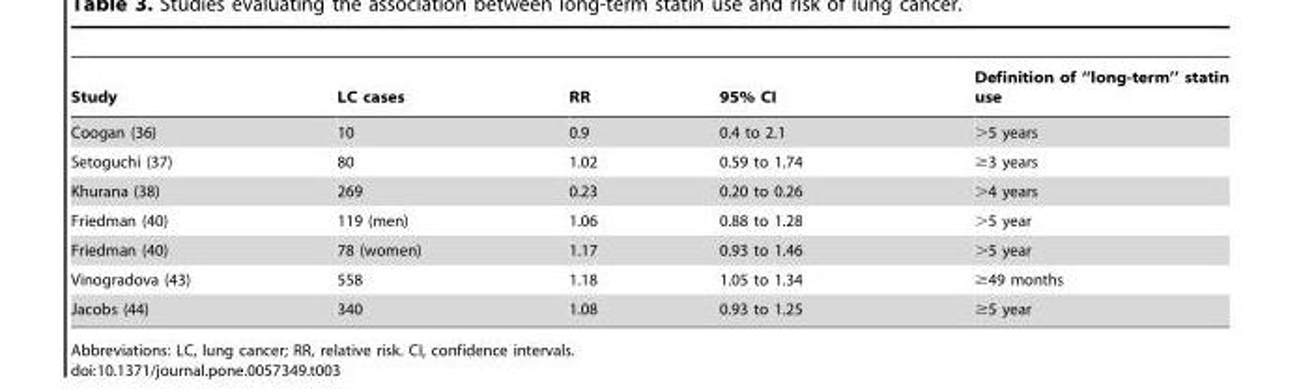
<table><thead><tr><td>Study</td><td>LC cases</td><td>RR</td><td>95% CI</td><td>Definition of ‘‘long-term’’ statin use</td></tr></thead><tbody><tr><td>Coogan (36)</td><td>10</td><td>0.9</td><td>0.4 to 2.1</td><td>&gt;5 years</td></tr><tr><td>Setoguchi (37)</td><td>80</td><td>1.02</td><td>0.59 to 1.74</td><td>≥3 years</td></tr><tr><td>Khurana (38)</td><td>269</td><td>0.23</td><td>0.20 to 0.26</td><td>&gt;4 years</td></tr><tr><td>Friedman (40)</td><td>119 (men)</td><td>1.06</td><td>0.88 to 1.28</td><td>&gt;5 year</td></tr><tr><td>Friedman (40)</td><td>78 (women)</td><td>1.17</td><td>0.93 to 1.46</td><td>&gt;5 year</td></tr><tr><td>Vinogradova (43)</td><td>558</td><td>1.18</td><td>1.05 to 1.34</td><td>≥49 months</td></tr><tr><td>Jacobs (44)</td><td>340</td><td>1.08</td><td>0.93 to 1.25</td><td>≥5 year</td></tr></tbody></table>